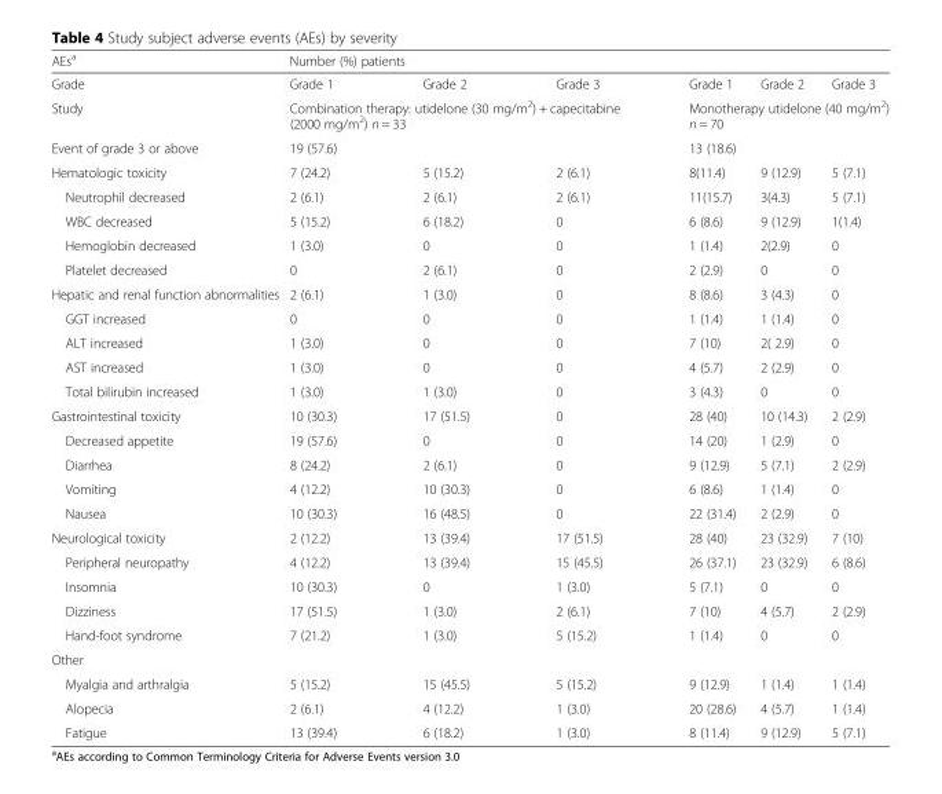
<table><thead><tr><td rowspan="2">AEs<sup>a</sup> Grade</td><td colspan="6">Number (%) patients</td></tr><tr><td>Grade 1</td><td>Grade 2</td><td>Grade 3</td><td>Grade 1</td><td>Grade 2</td><td>Grade 3</td></tr></thead><tbody><tr><td>Study</td><td colspan="3">Combination therapy: utidelone (30 mg/m<sup>2</sup>) + capecitabine (2000 mg/m<sup>2</sup>) n = 33</td><td colspan="3">Monotherapy utidelone (40 mg/m<sup>2</sup>) n = 70</td></tr><tr><td>Event of grade 3 or above</td><td colspan="3">19 (57.6)</td><td colspan="3">13 (18.6)</td></tr><tr><td>Hematologic toxicity</td><td>7 (24.2)</td><td>5 (15.2)</td><td>2 (6.1)</td><td>8(11.4)</td><td>9 (12.9)</td><td>5 (7.1)</td></tr><tr><td>Neutrophil decreased</td><td>2 (6.1)</td><td>2 (6.1)</td><td>2 (6.1)</td><td>11(15.7)</td><td>3(4.3)</td><td>5 (7.1)</td></tr><tr><td>WBC decreased</td><td>5 (15.2)</td><td>6 (18.2)</td><td>0</td><td>6 (8.6)</td><td>9 (12.9)</td><td>1(1.4)</td></tr><tr><td>Hemoglobin decreased</td><td>1 (3.0)</td><td>0</td><td>0</td><td>1 (1.4)</td><td>2(2.9)</td><td>0</td></tr><tr><td>Platelet decreased</td><td>0</td><td>2 (6.1)</td><td>0</td><td>2 (2.9)</td><td>0</td><td>0</td></tr><tr><td>Hepatic and renal function abnormalities</td><td>2 (6.1)</td><td>1 (3.0)</td><td>0</td><td>8 (8.6)</td><td>3 (4.3)</td><td>0</td></tr><tr><td>GGT increased</td><td>0</td><td>0</td><td>0</td><td>1 (1.4)</td><td>1 (1.4)</td><td>0</td></tr><tr><td>ALT increased</td><td>1 (3.0)</td><td>0</td><td>0</td><td>7 (10)</td><td>2( 2.9)</td><td>0</td></tr><tr><td>AST increased</td><td>1 (3.0)</td><td>0</td><td>0</td><td>4 (5.7)</td><td>2 (2.9)</td><td>0</td></tr><tr><td>Total bilirubin increased</td><td>1 (3.0)</td><td>1 (3.0)</td><td>0</td><td>3 (4.3)</td><td>0</td><td>0</td></tr><tr><td>Gastrointestinal toxicity</td><td>10 (30.3)</td><td>17 (51.5)</td><td>0</td><td>28 (40)</td><td>10 (14.3)</td><td>2 (2.9)</td></tr><tr><td>Decreased appetite</td><td>19 (57.6)</td><td>0</td><td>0</td><td>14 (20)</td><td>1 (2.9)</td><td>0</td></tr><tr><td>Diarrhea</td><td>8 (24.2)</td><td>2 (6.1)</td><td>0</td><td>9 (12.9)</td><td>5 (7.1)</td><td>2 (2.9)</td></tr><tr><td>Vomiting</td><td>4 (12.2)</td><td>10 (30.3)</td><td>0</td><td>6 (8.6)</td><td>1 (1.4)</td><td>0</td></tr><tr><td>Nausea</td><td>10 (30.3)</td><td>16 (48.5)</td><td>0</td><td>22 (31.4)</td><td>2 (2.9)</td><td>0</td></tr><tr><td>Neurological toxicity</td><td>2 (12.2)</td><td>13 (39.4)</td><td>17 (51.5)</td><td>28 (40)</td><td>23 (32.9)</td><td>7 (10)</td></tr><tr><td>Peripheral neuropathy</td><td>4 (12.2)</td><td>13 (39.4)</td><td>15 (45.5)</td><td>26 (37.1)</td><td>23 (32.9)</td><td>6 (8.6)</td></tr><tr><td>Insomnia</td><td>10 (30.3)</td><td>0</td><td>1 (3.0)</td><td>5 (7.1)</td><td>0</td><td>0</td></tr><tr><td>Dizziness</td><td>17 (51.5)</td><td>1 (3.0)</td><td>2 (6.1)</td><td>7 (10)</td><td>4 (5.7)</td><td>2 (2.9)</td></tr><tr><td>Hand-foot syndrome</td><td>7 (21.2)</td><td>1 (3.0)</td><td>5 (15.2)</td><td>1 (1.4)</td><td>0</td><td>0</td></tr><tr><td colspan="7">Other</td></tr><tr><td>Myalgia and arthralgia</td><td>5 (15.2)</td><td>15 (45.5)</td><td>5 (15.2)</td><td>9 (12.9)</td><td>1 (1.4)</td><td>1 (1.4)</td></tr><tr><td>Alopecia</td><td>2 (6.1)</td><td>4 (12.2)</td><td>1 (3.0)</td><td>20 (28.6)</td><td>4 (5.7)</td><td>1 (1.4)</td></tr><tr><td>Fatigue</td><td>13 (39.4)</td><td>6 (18.2)</td><td>1 (3.0)</td><td>8 (11.4)</td><td>9 (12.9)</td><td>5 (7.1)</td></tr></tbody></table>